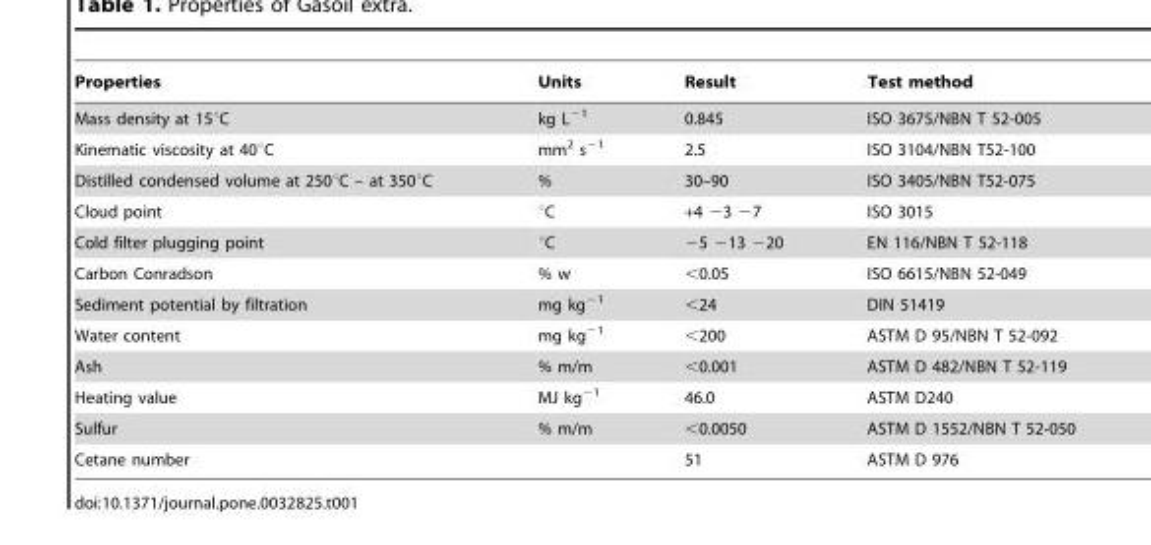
<table><thead><tr><td>Properties</td><td>Units</td><td>Result</td><td>Test method</td></tr></thead><tbody><tr><td>Mass density at 15°C</td><td>kg L<sup>−1</sup></td><td>0.845</td><td>ISO 3675/NBN T 52-005</td></tr><tr><td>Kinematic viscosity at 40°C</td><td>mm<sup>2</sup> s<sup>−1</sup></td><td>2.5</td><td>ISO 3104/NBN T52-100</td></tr><tr><td>Distilled condensed volume at 250°C – at 350°C</td><td>%</td><td>30–90</td><td>ISO 3405/NBN T52-075</td></tr><tr><td>Cloud point</td><td>°C</td><td>+4 −3 −7</td><td>ISO 3015</td></tr><tr><td>Cold filter plugging point</td><td>°C</td><td>−5 −13 −20</td><td>EN 116/NBN T 52-118</td></tr><tr><td>Carbon Conradson</td><td>% w</td><td>&lt;0.05</td><td>ISO 6615/NBN 52-049</td></tr><tr><td>Sediment potential by filtration</td><td>mg kg<sup>−1</sup></td><td>&lt;24</td><td>DIN 51419</td></tr><tr><td>Water content</td><td>mg kg<sup>−1</sup></td><td>&lt;200</td><td>ASTM D 95/NBN T 52-092</td></tr><tr><td>Ash</td><td>% m/m</td><td>&lt;0.001</td><td>ASTM D 482/NBN T 52-119</td></tr><tr><td>Heating value</td><td>MJ kg<sup>−1</sup></td><td>46.0</td><td>ASTM D240</td></tr><tr><td>Sulfur</td><td>% m/m</td><td>&lt;0.0050</td><td>ASTM D 1552/NBN T 52-050</td></tr><tr><td>Cetane number</td><td></td><td>51</td><td>ASTM D 976</td></tr></tbody></table>